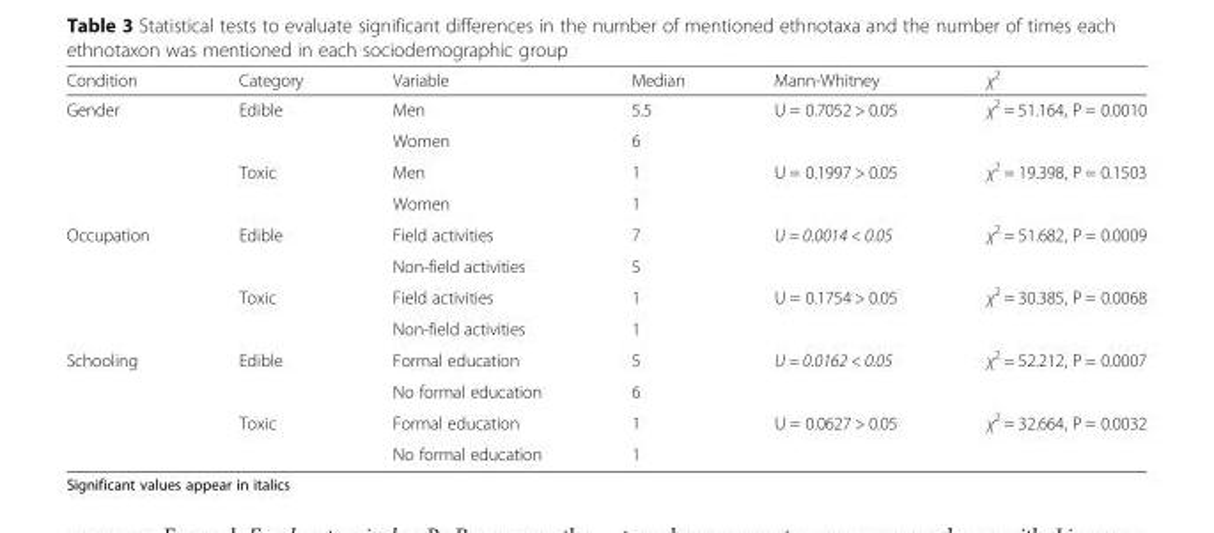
<table><thead><tr><td>Condition</td><td>Category</td><td>Variable</td><td>Median</td><td>Mann-Whitney</td><td>χ<sup>2</sup></td></tr></thead><tbody><tr><td rowspan="4">Gender</td><td rowspan="2">Edible</td><td>Men</td><td>5.5</td><td rowspan="2">U = 0.7052 &gt; 0.05</td><td rowspan="2">χ<sup>2</sup> = 51.164, P = 0.0010</td></tr><tr><td>Women</td><td>6</td></tr><tr><td rowspan="2">Toxic</td><td>Men</td><td>1</td><td rowspan="2">U = 0.1997 &gt; 0.05</td><td rowspan="2">χ<sup>2</sup> = 19.398, P = 0.1503</td></tr><tr><td>Women</td><td>1</td></tr><tr><td rowspan="4">Occupation</td><td rowspan="2">Edible</td><td>Field activities</td><td>7</td><td rowspan="2">U = 0.0014 &lt; 0.05</td><td rowspan="2">χ<sup>2</sup> = 51.682, P = 0.0009</td></tr><tr><td>Non-field activities</td><td>5</td></tr><tr><td rowspan="2">Toxic</td><td>Field activities</td><td>1</td><td rowspan="2">U = 0.1754 &gt; 0.05</td><td rowspan="2">χ<sup>2</sup> = 30.385, P = 0.0068</td></tr><tr><td>Non-field activities</td><td>1</td></tr><tr><td rowspan="4">Schooling</td><td rowspan="2">Edible</td><td>Formal education</td><td>5</td><td rowspan="2">U = 0.0162 &lt; 0.05</td><td rowspan="2">χ<sup>2</sup> = 52.212, P = 0.0007</td></tr><tr><td>No formal education</td><td>6</td></tr><tr><td rowspan="2">Toxic</td><td>Formal education</td><td>1</td><td rowspan="2">U = 0.0627 &gt; 0.05</td><td rowspan="2">χ<sup>2</sup> = 32.664, P = 0.0032</td></tr><tr><td>No formal education</td><td>1</td></tr></tbody></table>